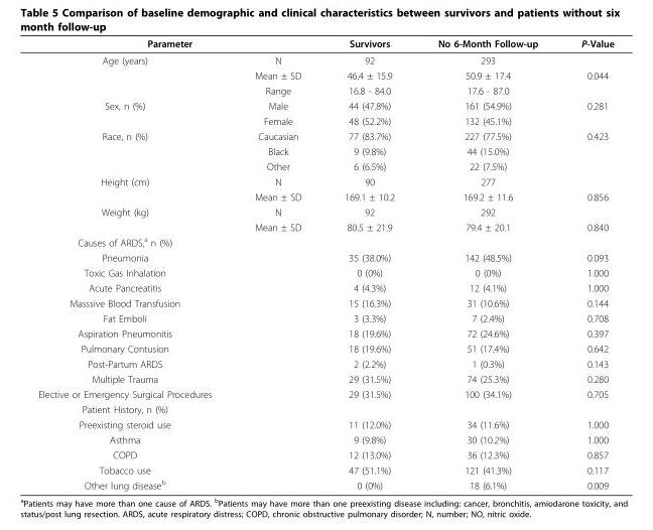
<table><thead><tr><td colspan="2">Parameter</td><td rowspan="2">Survivors 92</td><td rowspan="2">No 6-Month Follow-up 293</td><td rowspan="2">P-Value</td></tr><tr><td>Age (years)</td><td>N</td></tr></thead><tbody><tr><td></td><td>Mean ± SD</td><td>46.4 ± 15.9</td><td>50.9 ± 17.4</td><td>0.044</td></tr><tr><td></td><td>Range</td><td>16.8 - 84.0</td><td>17.6 - 87.0</td><td></td></tr><tr><td rowspan="2">Sex, n (%)</td><td>Male</td><td>44 (47.8%)</td><td>161 (54.9%)</td><td>0.281</td></tr><tr><td>Female</td><td>48 (52.2%)</td><td>132 (45.1%)</td><td></td></tr><tr><td rowspan="3">Race, n (%)</td><td>Caucasian</td><td>77 (83.7%)</td><td>227 (77.5%)</td><td>0.423</td></tr><tr><td>Black</td><td>9 (9.8%)</td><td>44 (15.0%)</td><td></td></tr><tr><td>Other</td><td>6 (6.5%)</td><td>22 (7.5%)</td><td></td></tr><tr><td rowspan="2">Height (cm)</td><td>N</td><td>90</td><td>277</td><td></td></tr><tr><td>Mean ± SD</td><td>169.1 ± 10.2</td><td>169.2 ± 11.6</td><td>0.856</td></tr><tr><td rowspan="2">Weight (kg)</td><td>N</td><td>92</td><td>292</td><td></td></tr><tr><td>Mean ± SD</td><td>80.5 ± 21.9</td><td>79.4 ± 20.1</td><td>0.840</td></tr><tr><td colspan="5">Causes of ARDS,<sup>a</sup> n (%)</td></tr><tr><td>Pneumonia</td><td></td><td>35 (38.0%)</td><td>142 (48.5%)</td><td>0.093</td></tr><tr><td>Toxic Gas Inhalation</td><td></td><td>0 (0%)</td><td>0 (0%)</td><td>1.000</td></tr><tr><td>Acute Pancreatitis</td><td></td><td>4 (4.3%)</td><td>12 (4.1%)</td><td>1.000</td></tr><tr><td>Masssive Blood Transfusion</td><td></td><td>15 (16.3%)</td><td>31 (10.6%)</td><td>0.144</td></tr><tr><td>Fat Emboli</td><td></td><td>3 (3.3%)</td><td>7 (2.4%)</td><td>0.708</td></tr><tr><td>Aspiration Pneumonitis</td><td></td><td>18 (19.6%)</td><td>72 (24.6%)</td><td>0.397</td></tr><tr><td>Pulmonary Contusion</td><td></td><td>18 (19.6%)</td><td>51 (17.4%)</td><td>0.642</td></tr><tr><td>Post-Partum ARDS</td><td></td><td>2 (2.2%)</td><td>1 (0.3%)</td><td>0.143</td></tr><tr><td>Multiple Trauma</td><td></td><td>29 (31.5%)</td><td>74 (25.3%)</td><td>0.280</td></tr><tr><td>Elective or Emergency Surgical Procedures</td><td></td><td>29 (31.5%)</td><td>100 (34.1%)</td><td>0.705</td></tr><tr><td colspan="5">Patient History, n (%)</td></tr><tr><td>Preexisting steroid use</td><td></td><td>11 (12.0%)</td><td>34 (11.6%)</td><td>1.000</td></tr><tr><td>Asthma</td><td></td><td>9 (9.8%)</td><td>30 (10.2%)</td><td>1.000</td></tr><tr><td>COPD</td><td></td><td>12 (13.0%)</td><td>36 (12.3%)</td><td>0.857</td></tr><tr><td>Tobacco use</td><td></td><td>47 (51.1%)</td><td>121 (41.3%)</td><td>0.117</td></tr><tr><td>Other lung disease<sup>b</sup></td><td></td><td>0 (0%)</td><td>18 (6.1%)</td><td>0.009</td></tr></tbody></table>